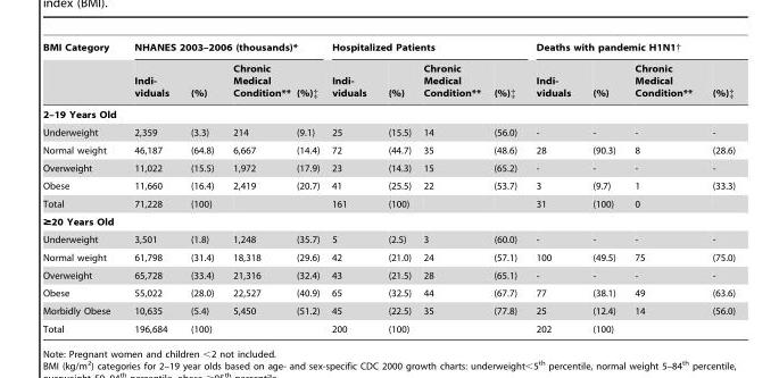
<table><thead><tr><td rowspan="2">BMI Category</td><td colspan="4">NHANES 2003–2006 (thousands)*</td><td colspan="4">Hospitalized Patients</td><td colspan="4">Deaths with pandemic H1N1†</td></tr><tr><td>Indi- viduals</td><td>(%)</td><td>Chronic Medical Condition**</td><td>(%)‡</td><td>Indi- viduals</td><td>(%)</td><td>Chronic Medical Condition**</td><td>(%)‡</td><td>Indi- viduals</td><td>(%)</td><td>Chronic Medical Condition**</td><td>(%)‡</td></tr></thead><tbody><tr><td colspan="13">2–19 Years Old</td></tr><tr><td>Underweight</td><td>2,359</td><td>(3.3)</td><td>214</td><td>(9.1)</td><td>25</td><td>(15.5)</td><td>14</td><td>(56.0)</td><td>-</td><td>-</td><td>-</td><td>-</td></tr><tr><td>Normal weight</td><td>46,187</td><td>(64.8)</td><td>6,667</td><td>(14.4)</td><td>72</td><td>(44.7)</td><td>35</td><td>(48.6)</td><td>28</td><td>(90.3)</td><td>8</td><td>(28.6)</td></tr><tr><td>Overweight</td><td>11,022</td><td>(15.5)</td><td>1,972</td><td>(17.9)</td><td>23</td><td>(14.3)</td><td>15</td><td>(65.2)</td><td>-</td><td>-</td><td>-</td><td>-</td></tr><tr><td>Obese</td><td>11,660</td><td>(16.4)</td><td>2,419</td><td>(20.7)</td><td>41</td><td>(25.5)</td><td>22</td><td>(53.7)</td><td>3</td><td>(9.7)</td><td>1</td><td>(33.3)</td></tr><tr><td>Total</td><td>71,228</td><td>(100)</td><td></td><td></td><td>161</td><td>(100)</td><td></td><td></td><td>31</td><td>(100)</td><td>0</td><td></td></tr><tr><td colspan="13">≥20 Years Old</td></tr><tr><td>Underweight</td><td>3,501</td><td>(1.8)</td><td>1,248</td><td>(35.7)</td><td>5</td><td>(2.5)</td><td>3</td><td>(60.0)</td><td>-</td><td>-</td><td>-</td><td>-</td></tr><tr><td>Normal weight</td><td>61,798</td><td>(31.4)</td><td>18,318</td><td>(29.6)</td><td>42</td><td>(21.0)</td><td>24</td><td>(57.1)</td><td>100</td><td>(49.5)</td><td>75</td><td>(75.0)</td></tr><tr><td>Overweight</td><td>65,728</td><td>(33.4)</td><td>21,316</td><td>(32.4)</td><td>43</td><td>(21.5)</td><td>28</td><td>(65.1)</td><td>-</td><td>-</td><td>-</td><td>-</td></tr><tr><td>Obese</td><td>55,022</td><td>(28.0)</td><td>22,527</td><td>(40.9)</td><td>65</td><td>(32.5)</td><td>44</td><td>(67.7)</td><td>77</td><td>(38.1)</td><td>49</td><td>(63.6)</td></tr><tr><td>Morbidly Obese</td><td>10,635</td><td>(5.4)</td><td>5,450</td><td>(51.2)</td><td>45</td><td>(22.5)</td><td>35</td><td>(77.8)</td><td>25</td><td>(12.4)</td><td>14</td><td>(56.0)</td></tr><tr><td>Total</td><td>196,684</td><td>(100)</td><td></td><td></td><td>200</td><td>(100)</td><td></td><td></td><td>202</td><td>(100)</td><td></td><td></td></tr></tbody></table>